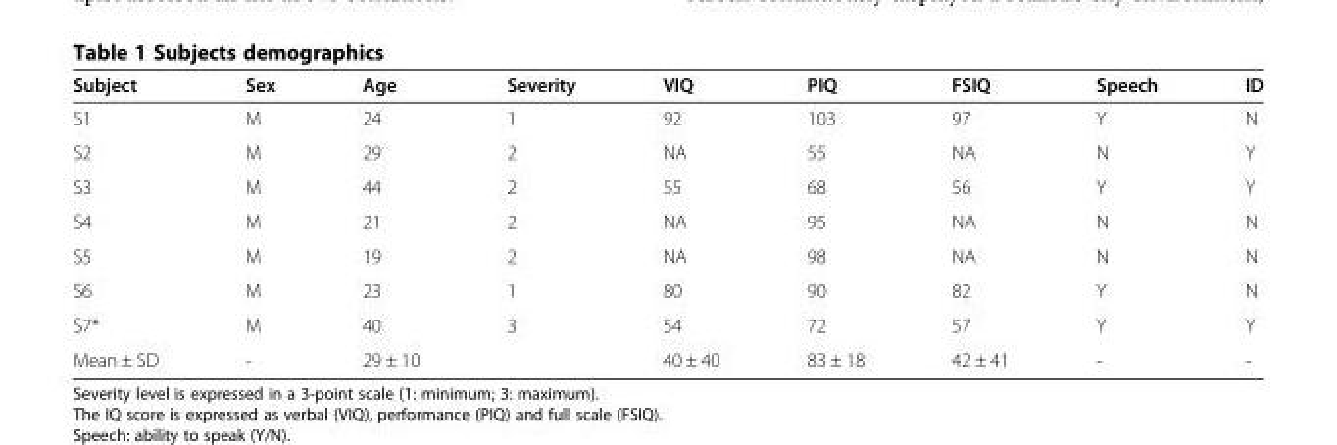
<table><thead><tr><td>Subject</td><td>Sex</td><td>Age</td><td>Severity</td><td>VIQ</td><td>PIQ</td><td>FSIQ</td><td>Speech</td><td>ID</td></tr></thead><tbody><tr><td>S1</td><td>M</td><td>24</td><td>1</td><td>92</td><td>103</td><td>97</td><td>Y</td><td>N</td></tr><tr><td>S2</td><td>M</td><td>29</td><td>2</td><td>NA</td><td>55</td><td>NA</td><td>N</td><td>Y</td></tr><tr><td>S3</td><td>M</td><td>44</td><td>2</td><td>55</td><td>68</td><td>56</td><td>Y</td><td>Y</td></tr><tr><td>S4</td><td>M</td><td>21</td><td>2</td><td>NA</td><td>95</td><td>NA</td><td>N</td><td>N</td></tr><tr><td>S5</td><td>M</td><td>19</td><td>2</td><td>NA</td><td>98</td><td>NA</td><td>N</td><td>N</td></tr><tr><td>S6</td><td>M</td><td>23</td><td>1</td><td>80</td><td>90</td><td>82</td><td>Y</td><td>N</td></tr><tr><td>S7*</td><td>M</td><td>40</td><td>3</td><td>54</td><td>72</td><td>57</td><td>Y</td><td>Y</td></tr><tr><td>Mean ± SD</td><td>-</td><td>29 ± 10</td><td></td><td>40 ± 40</td><td>83 ± 18</td><td>42 ± 41</td><td>-</td><td>-</td></tr></tbody></table>